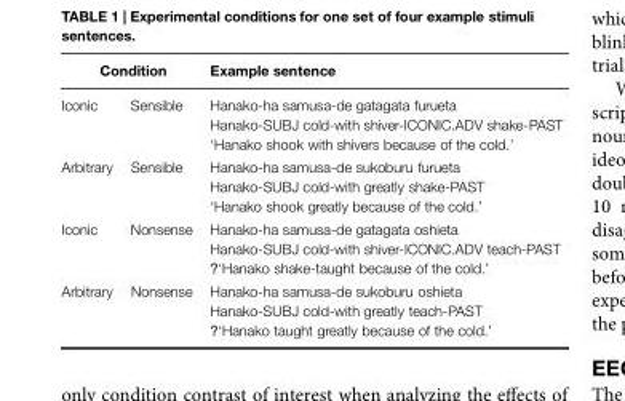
<table><thead><tr><td colspan="2">Condition</td><td rowspan="2">Example sentence Hanako-ha samusa-de gatagata furueta Hanako-SUBJ cold-with shiver-ICONIC.ADV shake-PAST ‘Hanako shook with shivers because of the cold.’</td></tr><tr><td>Iconic</td><td>Sensible</td></tr></thead><tbody><tr><td>Arbitrary</td><td>Sensible</td><td>Hanako-ha samusa-de sukoburu furueta Hanako-SUBJ cold-with greatly shake-PAST ‘Hanako shook greatly because of the cold.’</td></tr><tr><td>Iconic</td><td>Nonsense</td><td>Hanako-ha samusa-de gatagata oshieta Hanako-SUBJ cold-with shiver-ICONIC.ADV teach-PAST ?‘Hanako shake-taught because of the cold.’</td></tr><tr><td>Arbitrary</td><td>Nonsense</td><td>Hanako-ha samusa-de sukoburu oshieta Hanako-SUBJ cold-with greatly teach-PAST ?‘Hanako taught greatly because of the cold.’</td></tr></tbody></table>